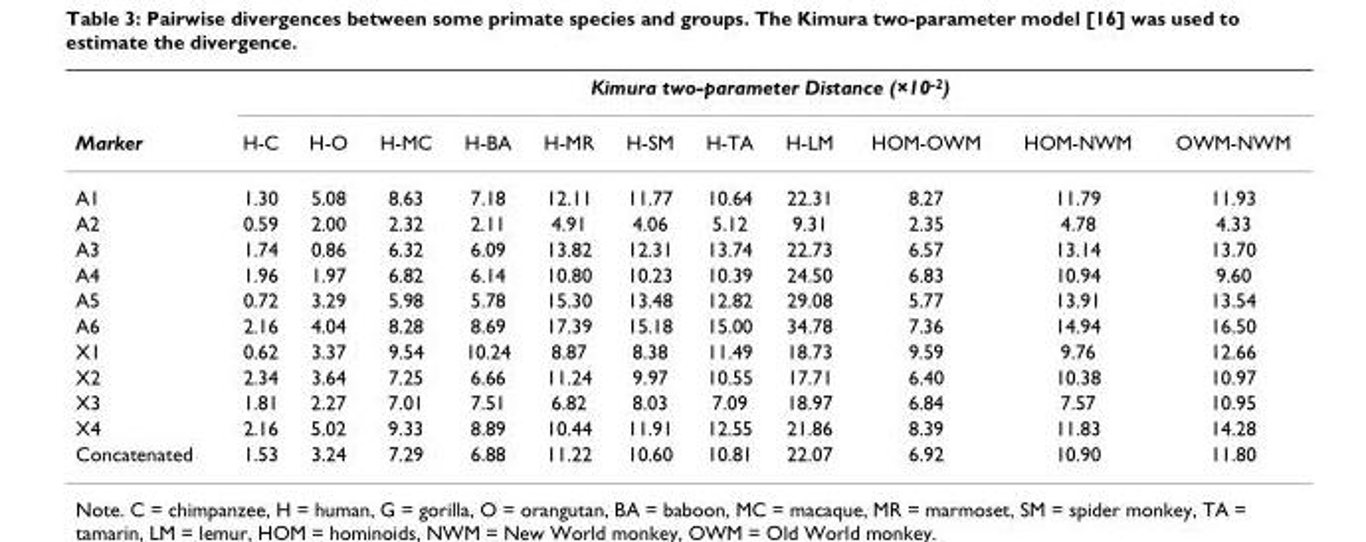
<table><thead><tr><td rowspan="2">Marker</td><td colspan="11">Kimura two-parameter Distance (×10<sup>-2</sup>)</td></tr><tr><td>H-C</td><td>H-O</td><td>H-MC</td><td>H-BA</td><td>H-MR</td><td>H-SM</td><td>H-TA</td><td>H-LM</td><td>HOM-OWM</td><td>HOM-NWM</td><td>OWM-NWM</td></tr></thead><tbody><tr><td>A1</td><td>1.30</td><td>5.08</td><td>8.63</td><td>7.18</td><td>12.11</td><td>11.77</td><td>10.64</td><td>22.31</td><td>8.27</td><td>11.79</td><td>11.93</td></tr><tr><td>A2</td><td>0.59</td><td>2.00</td><td>2.32</td><td>2.11</td><td>4.91</td><td>4.06</td><td>5.12</td><td>9.31</td><td>2.35</td><td>4.78</td><td>4.33</td></tr><tr><td>A3</td><td>1.74</td><td>0.86</td><td>6.32</td><td>6.09</td><td>13.82</td><td>12.31</td><td>13.74</td><td>22.73</td><td>6.57</td><td>13.14</td><td>13.70</td></tr><tr><td>A4</td><td>1.96</td><td>1.97</td><td>6.82</td><td>6.14</td><td>10.80</td><td>10.23</td><td>10.39</td><td>24.50</td><td>6.83</td><td>10.94</td><td>9.60</td></tr><tr><td>A5</td><td>0.72</td><td>3.29</td><td>5.98</td><td>5.78</td><td>15.30</td><td>13.48</td><td>12.82</td><td>29.08</td><td>5.77</td><td>13.91</td><td>13.54</td></tr><tr><td>A6</td><td>2.16</td><td>4.04</td><td>8.28</td><td>8.69</td><td>17.39</td><td>15.18</td><td>15.00</td><td>34.78</td><td>7.36</td><td>14.94</td><td>16.50</td></tr><tr><td>X1</td><td>0.62</td><td>3.37</td><td>9.54</td><td>10.24</td><td>8.87</td><td>8.38</td><td>11.49</td><td>18.73</td><td>9.59</td><td>9.76</td><td>12.66</td></tr><tr><td>X2</td><td>2.34</td><td>3.64</td><td>7.25</td><td>6.66</td><td>11.24</td><td>9.97</td><td>10.55</td><td>17.71</td><td>6.40</td><td>10.38</td><td>10.97</td></tr><tr><td>X3</td><td>1.81</td><td>2.27</td><td>7.01</td><td>7.51</td><td>6.82</td><td>8.03</td><td>7.09</td><td>18.97</td><td>6.84</td><td>7.57</td><td>10.95</td></tr><tr><td>X4</td><td>2.16</td><td>5.02</td><td>9.33</td><td>8.89</td><td>10.44</td><td>11.91</td><td>12.55</td><td>21.86</td><td>8.39</td><td>11.83</td><td>14.28</td></tr><tr><td>Concatenated</td><td>1.53</td><td>3.24</td><td>7.29</td><td>6.88</td><td>11.22</td><td>10.60</td><td>10.81</td><td>22.07</td><td>6.92</td><td>10.90</td><td>11.80</td></tr></tbody></table>